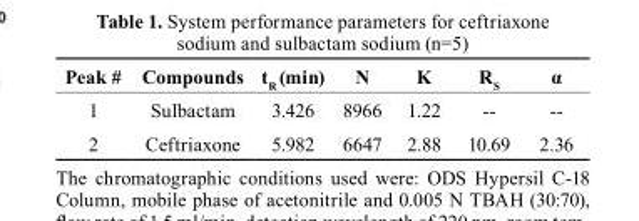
<table><thead><tr><td>Peak #</td><td>compounds</td><td>t<sub>r</sub> (min)</td><td>N</td><td>K</td><td>r<sub>s</sub></td><td>α</td></tr></thead><tbody><tr><td>1</td><td>Sulbactam</td><td>3.426</td><td>8966</td><td>1.22</td><td>--</td><td>--</td></tr><tr><td>2</td><td>Ceftriaxone</td><td>5.982</td><td>6647</td><td>2.88</td><td>10.69</td><td>2.36</td></tr></tbody></table>